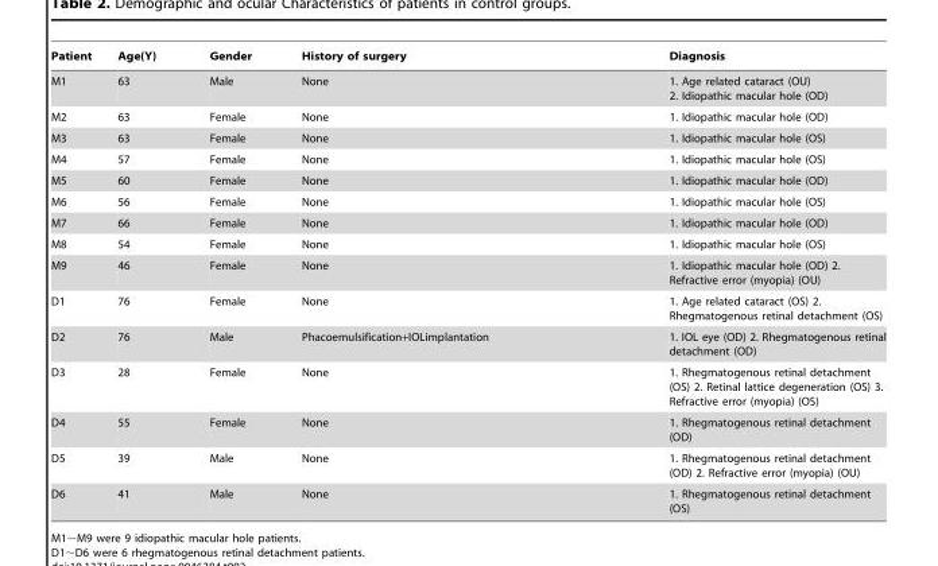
<table><thead><tr><td>Patient</td><td>Age(Y)</td><td>Gender</td><td>History of surgery</td><td>Diagnosis</td></tr></thead><tbody><tr><td>M1</td><td>63</td><td>Male</td><td>None</td><td>1. Age related cataract (OU) 2. Idiopathic macular hole (OD)</td></tr><tr><td>M2</td><td>63</td><td>Female</td><td>None</td><td>1. Idiopathic macular hole (OD)</td></tr><tr><td>M3</td><td>63</td><td>Female</td><td>None</td><td>1. Idiopathic macular hole (OS)</td></tr><tr><td>M4</td><td>57</td><td>Female</td><td>None</td><td>1. Idiopathic macular hole (OS)</td></tr><tr><td>M5</td><td>60</td><td>Female</td><td>None</td><td>1. Idiopathic macular hole (OD)</td></tr><tr><td>M6</td><td>56</td><td>Female</td><td>None</td><td>1. Idiopathic macular hole (OS)</td></tr><tr><td>M7</td><td>66</td><td>Female</td><td>None</td><td>1. Idiopathic macular hole (OD)</td></tr><tr><td>M8</td><td>54</td><td>Female</td><td>None</td><td>1. Idiopathic macular hole (OS)</td></tr><tr><td>M9</td><td>46</td><td>Female</td><td>None</td><td>1. Idiopathic macular hole (OD) 2. Refractive error (myopia) (OU)</td></tr><tr><td>D1</td><td>76</td><td>Female</td><td>None</td><td>1. Age related cataract (OS) 2. Rhegmatogenous retinal detachment (OS)</td></tr><tr><td>D2</td><td>76</td><td>Male</td><td>Phacoemulsification+IOLimplantation</td><td>1. IOL eye (OD) 2. Rhegmatogenous retinal detachment (OD)</td></tr><tr><td>D3</td><td>28</td><td>Female</td><td>None</td><td>1. Rhegmatogenous retinal detachment (OS) 2. Retinal lattice degeneration (OS) 3. Refractive error (myopia) (OS)</td></tr><tr><td>D4</td><td>55</td><td>Female</td><td>None</td><td>1. Rhegmatogenous retinal detachment (OD)</td></tr><tr><td>D5</td><td>39</td><td>Male</td><td>None</td><td>1. Rhegmatogenous retinal detachment (OD) 2. Refractive error (myopia) (OU)</td></tr><tr><td>D6</td><td>41</td><td>Male</td><td>None</td><td>1. Rhegmatogenous retinal detachment (OS)</td></tr></tbody></table>